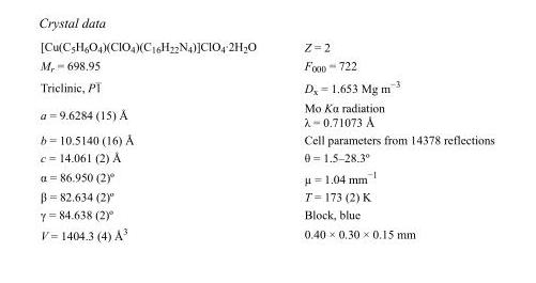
<table><tbody><tr><td>[Cu(C<sub>5</sub>H<sub>6</sub>O<sub>4</sub>)(ClO<sub>4</sub>)(C<sub>16</sub>H<sub>22</sub>N<sub>4</sub>)]ClO<sub>4</sub>·2H<sub>2</sub>O</td><td>Z = 2</td></tr><tr><td>M<sub>r</sub> = 698.95</td><td>F<sub>000</sub> = 722</td></tr><tr><td>Triclinic, P1</td><td>D<sub>x</sub> = 1.653 Mg m<sup>−3</sup></td></tr><tr><td>a = 9.6284 (15) Å</td><td>Mo Kα radiation λ = 0.71073 Å</td></tr><tr><td>b = 10.5140 (16) Å</td><td>Cell parameters from 14378 reflections</td></tr><tr><td>c = 14.061 (2) Å</td><td>θ = 1.5–28.3º</td></tr><tr><td>α = 86.950 (2)º</td><td>µ = 1.04 mm<sup>−1</sup></td></tr><tr><td>β = 82.634 (2)º</td><td>T = 173 (2) K</td></tr><tr><td>γ = 84.638 (2)º</td><td>Block, blue</td></tr><tr><td>V = 1404.3 (4) Å<sup>3</sup></td><td>0.40 × 0.30 × 0.15 mm</td></tr></tbody></table>